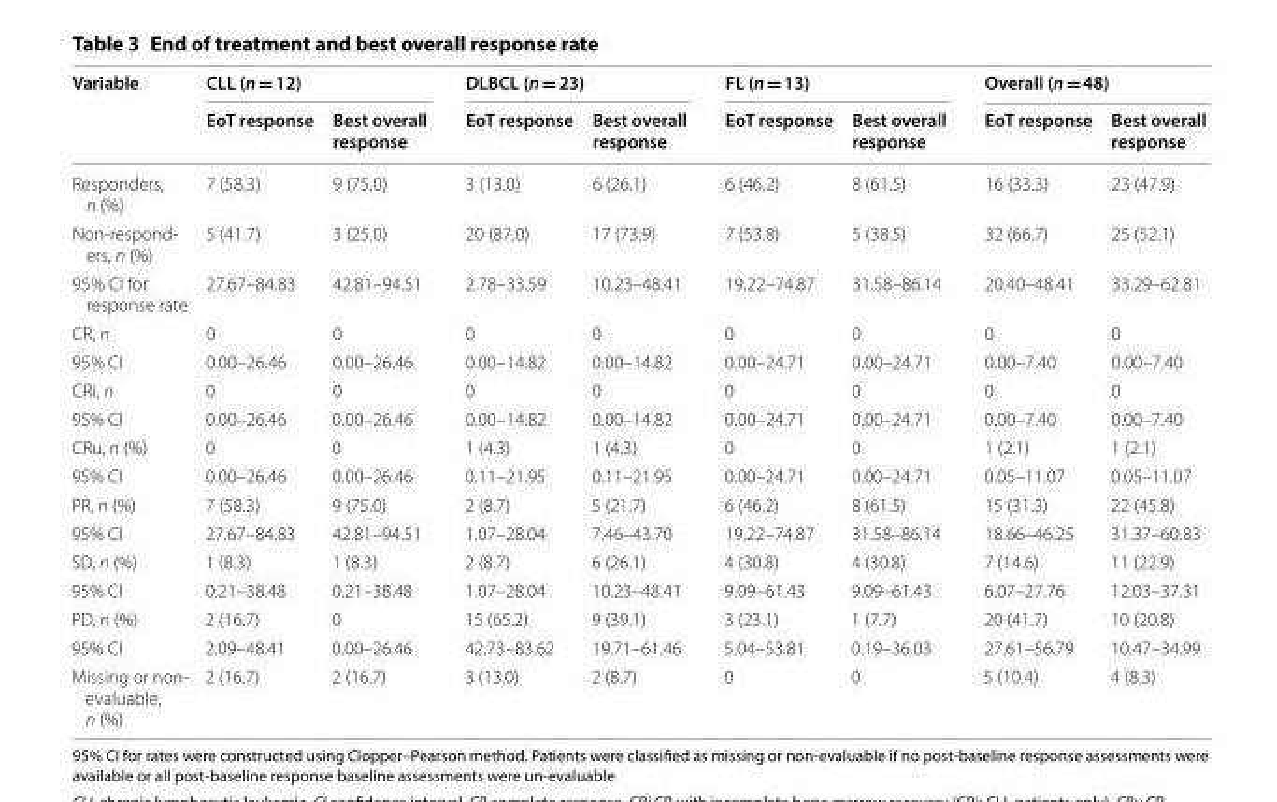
<table><thead><tr><td rowspan="2">Variable</td><td colspan="2">CLL (n = 12)</td><td colspan="2">DLBCL (n = 23)</td><td colspan="2">FL (n = 13)</td><td colspan="2">Overall (n = 48)</td></tr><tr><td>EoT response</td><td>Best overall response</td><td>EoT response</td><td>Best overall response</td><td>EoT response</td><td>Best overall response</td><td>EoT response</td><td>Best overall response</td></tr></thead><tbody><tr><td>Responders, n (%)</td><td>7 (58.3)</td><td>9 (75.0)</td><td>3 (13.0)</td><td>6 (26.1)</td><td>6 (46.2)</td><td>8 (61.5)</td><td>16 (33.3)</td><td>23 (47.9)</td></tr><tr><td>Non-respond- ers, n (%)</td><td>5 (41.7)</td><td>3 (25.0)</td><td>20 (87.0)</td><td>17 (73.9)</td><td>7 (53.8)</td><td>5 (38.5)</td><td>32 (66.7)</td><td>25 (52.1)</td></tr><tr><td>95% CI for response rate</td><td>27.67–84.83</td><td>42.81–94.51</td><td>2.78–33.59</td><td>10.23–48.41</td><td>19.22–74.87</td><td>31.58–86.14</td><td>20.40–48.41</td><td>33.29–62.81</td></tr><tr><td>CR, n</td><td>0</td><td>0</td><td>0</td><td>0</td><td>0</td><td>0</td><td>0</td><td>0</td></tr><tr><td>95% CI</td><td>0.00–26.46</td><td>0.00–26.46</td><td>0.00–14.82</td><td>0.00–14.82</td><td>0.00–24.71</td><td>0.00–24.71</td><td>0.00–7.40</td><td>0.00–7.40</td></tr><tr><td>CRi, n</td><td>0</td><td>0</td><td>0</td><td>0</td><td>0</td><td>0</td><td>0</td><td>0</td></tr><tr><td>95% CI</td><td>0.00–26.46</td><td>0.00–26.46</td><td>0.00–14.82</td><td>0.00–14.82</td><td>0.00–24.71</td><td>0.00–24.71</td><td>0.00–7.40</td><td>0.00–7.40</td></tr><tr><td>CRu, n (%)</td><td>0</td><td>0</td><td>1 (4.3)</td><td>1 (4.3)</td><td>0</td><td>0</td><td>1 (2.1)</td><td>1 (2.1)</td></tr><tr><td>95% CI</td><td>0.00–26.46</td><td>0.00–26.46</td><td>0.11–21.95</td><td>0.11–21.95</td><td>0.00–24.71</td><td>0.00–24.71</td><td>0.05–11.07</td><td>0.05–11.07</td></tr><tr><td>PR, n (%)</td><td>7 (58.3)</td><td>9 (75.0)</td><td>2 (8.7)</td><td>5 (21.7)</td><td>6 (46.2)</td><td>8 (61.5)</td><td>15 (31.3)</td><td>22 (45.8)</td></tr><tr><td>95% CI</td><td>27.67–84.83</td><td>42.81–94.51</td><td>1.07–28.04</td><td>7.46–43.70</td><td>19.22–74.87</td><td>31.58–86.14</td><td>18.66–46.25</td><td>31.37–60.83</td></tr><tr><td>SD, n (%)</td><td>1 (8.3)</td><td>1 (8.3)</td><td>2 (8.7)</td><td>6 (26.1)</td><td>4 (30.8)</td><td>4 (30.8)</td><td>7 (14.6)</td><td>11 (22.9)</td></tr><tr><td>95% CI</td><td>0.21–38.48</td><td>0.21–38.48</td><td>1.07–28.04</td><td>10.23–48.41</td><td>9.09–61.43</td><td>9.09–61.43</td><td>6.07–27.76</td><td>12.03–37.31</td></tr><tr><td>PD, n (%)</td><td>2 (16.7)</td><td>0</td><td>15 (65.2)</td><td>9 (39.1)</td><td>3 (23.1)</td><td>1 (7.7)</td><td>20 (41.7)</td><td>10 (20.8)</td></tr><tr><td>95% CI</td><td>2.09–48.41</td><td>0.00–26.46</td><td>42.73–83.62</td><td>19.71–61.46</td><td>5.04–53.81</td><td>0.19–36.03</td><td>27.61–56.79</td><td>10.47–34.99</td></tr><tr><td>Missing or non- evaluable, n (%)</td><td>2 (16.7)</td><td>2 (16.7)</td><td>3 (13.0)</td><td>2 (8.7)</td><td>0</td><td>0</td><td>5 (10.4)</td><td>4 (8.3)</td></tr></tbody></table>